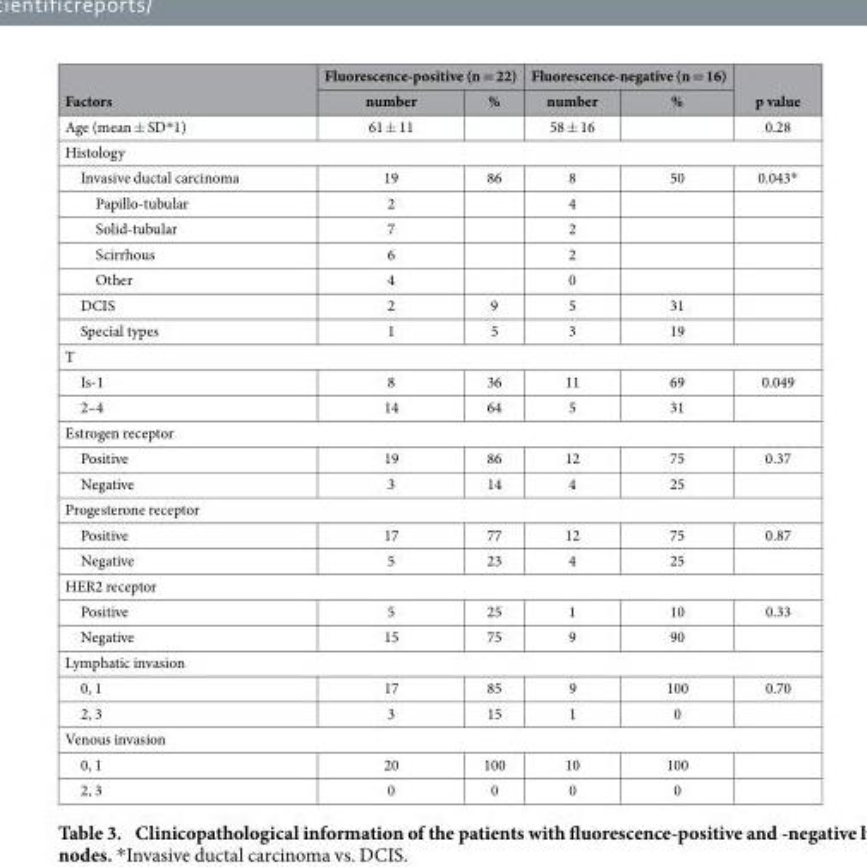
<table><thead><tr><td rowspan="2">Factors</td><td colspan="2">Fluorescence-positive (n = 22)</td><td colspan="2">Fluorescence-negative (n = 16)</td><td rowspan="2">p value</td></tr><tr><td>number</td><td>%</td><td>number</td><td>%</td></tr></thead><tbody><tr><td>Age (mean ± SD* 1)</td><td>61 ± 11</td><td></td><td>58 ± 16</td><td></td><td>0.28</td></tr><tr><td colspan="6">Histology</td></tr><tr><td>Invasive ductal carcinoma</td><td>19</td><td>86</td><td>8</td><td>50</td><td>0.043*</td></tr><tr><td>Papillo-tubular</td><td>2</td><td></td><td>4</td><td></td><td></td></tr><tr><td>Solid-tubular</td><td>7</td><td></td><td>2</td><td></td><td></td></tr><tr><td>Scirrhous</td><td>6</td><td></td><td>2</td><td></td><td></td></tr><tr><td>Other</td><td>4</td><td></td><td>0</td><td></td><td></td></tr><tr><td>DCIS</td><td>2</td><td>9</td><td>5</td><td>31</td><td></td></tr><tr><td>Special types</td><td>1</td><td>5</td><td>3</td><td>19</td><td></td></tr><tr><td colspan="6">T</td></tr><tr><td>Is-1</td><td>8</td><td>36</td><td>11</td><td>69</td><td>0.049</td></tr><tr><td>2–4</td><td>14</td><td>64</td><td>5</td><td>31</td><td></td></tr><tr><td colspan="6">Estrogen receptor</td></tr><tr><td>Positive</td><td>19</td><td>86</td><td>12</td><td>75</td><td>0.37</td></tr><tr><td>Negative</td><td>3</td><td>14</td><td>4</td><td>25</td><td></td></tr><tr><td colspan="6">Progesterone receptor</td></tr><tr><td>Positive</td><td>17</td><td>77</td><td>12</td><td>75</td><td>0.87</td></tr><tr><td>Negative</td><td>5</td><td>23</td><td>4</td><td>25</td><td></td></tr><tr><td colspan="6">HER2 receptor</td></tr><tr><td>Positive</td><td>5</td><td>25</td><td>1</td><td>10</td><td>0.33</td></tr><tr><td>Negative</td><td>15</td><td>75</td><td>9</td><td>90</td><td></td></tr><tr><td colspan="6">Lymphatic invasion</td></tr><tr><td>0, 1</td><td>17</td><td>85</td><td>9</td><td>100</td><td>0.70</td></tr><tr><td>2, 3</td><td>3</td><td>15</td><td>1</td><td>0</td><td></td></tr><tr><td colspan="6">Venous invasion</td></tr><tr><td>0, 1</td><td>20</td><td>100</td><td>10</td><td>100</td><td></td></tr><tr><td>2, 3</td><td>0</td><td>0</td><td>0</td><td>0</td><td></td></tr></tbody></table>